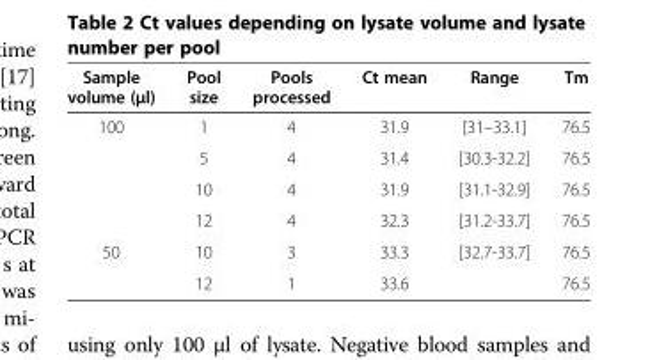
<table><thead><tr><td>Sample volume (μl)</td><td>Pool size</td><td>Pools processed</td><td>Ct mean</td><td>Range</td><td>Tm</td></tr></thead><tbody><tr><td rowspan="4">100</td><td>1</td><td>4</td><td>31.9</td><td>[31–33.1]</td><td>76.5</td></tr><tr><td>5</td><td>4</td><td>31.4</td><td>[30.3-32.2]</td><td>76.5</td></tr><tr><td>10</td><td>4</td><td>31.9</td><td>[31.1-32.9]</td><td>76.5</td></tr><tr><td>12</td><td>4</td><td>32.3</td><td>[31.2-33.7]</td><td>76.5</td></tr><tr><td rowspan="2">50</td><td>10</td><td>3</td><td>33.3</td><td>[32.7-33.7]</td><td>76.5</td></tr><tr><td>12</td><td>1</td><td>33.6</td><td></td><td>76.5</td></tr></tbody></table>